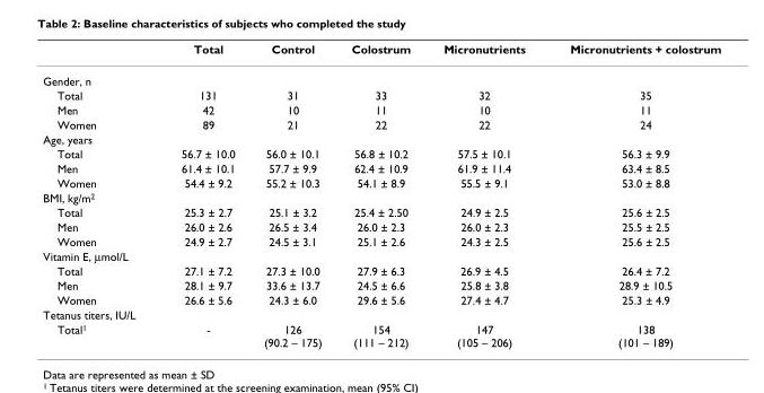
<table><thead><tr><td></td><td>Total</td><td>Control</td><td>Colostrum</td><td>Micronutrients</td><td>Micronutrients + colostrum</td></tr></thead><tbody><tr><td colspan="6">Gender, n</td></tr><tr><td>Total</td><td>131</td><td>31</td><td>33</td><td>32</td><td>35</td></tr><tr><td>Men</td><td>42</td><td>10</td><td>11</td><td>10</td><td>11</td></tr><tr><td>Women</td><td>89</td><td>21</td><td>22</td><td>22</td><td>24</td></tr><tr><td colspan="6">Age, years</td></tr><tr><td>Total</td><td>56.7 ± 10.0</td><td>56.0 ± 10.1</td><td>56.8 ± 10.2</td><td>57.5 ± 10.1</td><td>56.3 ± 9.9</td></tr><tr><td>Men</td><td>61.4 ± 10.1</td><td>57.7 ± 9.9</td><td>62.4 ± 10.9</td><td>61.9 ± 11.4</td><td>63.4 ± 8.5</td></tr><tr><td>Women</td><td>54.4 ± 9.2</td><td>55.2 ± 10.3</td><td>54.1 ± 8.9</td><td>55.5 ± 9.1</td><td>53.0 ± 8.8</td></tr><tr><td colspan="6">BMI, kg/m<sup>2</sup></td></tr><tr><td>Total</td><td>25.3 ± 2.7</td><td>25.1 ± 3.2</td><td>25.4 ± 2.50</td><td>24.9 ± 2.5</td><td>25.6 ± 2.5</td></tr><tr><td>Men</td><td>26.0 ± 2.6</td><td>26.5 ± 3.4</td><td>26.0 ± 2.3</td><td>26.0 ± 2.3</td><td>25.5 ± 2.5</td></tr><tr><td>Women</td><td>24.9 ± 2.7</td><td>24.5 ± 3.1</td><td>25.1 ± 2.6</td><td>24.3 ± 2.5</td><td>25.6 ± 2.5</td></tr><tr><td colspan="6">Vitamin E, μmol/L</td></tr><tr><td>Total</td><td>27.1 ± 7.2</td><td>27.3 ± 10.0</td><td>27.9 ± 6.3</td><td>26.9 ± 4.5</td><td>26.4 ± 7.2</td></tr><tr><td>Men</td><td>28.1 ± 9.7</td><td>33.6 ± 13.7</td><td>24.5 ± 6.6</td><td>25.8 ± 3.8</td><td>28.9 ± 10.5</td></tr><tr><td>Women</td><td>26.6 ± 5.6</td><td>24.3 ± 6.0</td><td>29.6 ± 5.6</td><td>27.4 ± 4.7</td><td>25.3 ± 4.9</td></tr><tr><td colspan="6">Tetanus titers, IU/L</td></tr><tr><td>Total<sup>1</sup></td><td>-</td><td>126 (90.2 – 175)</td><td>154 (111 – 212)</td><td>147 (105 – 206)</td><td>138 (101 – 189)</td></tr></tbody></table>